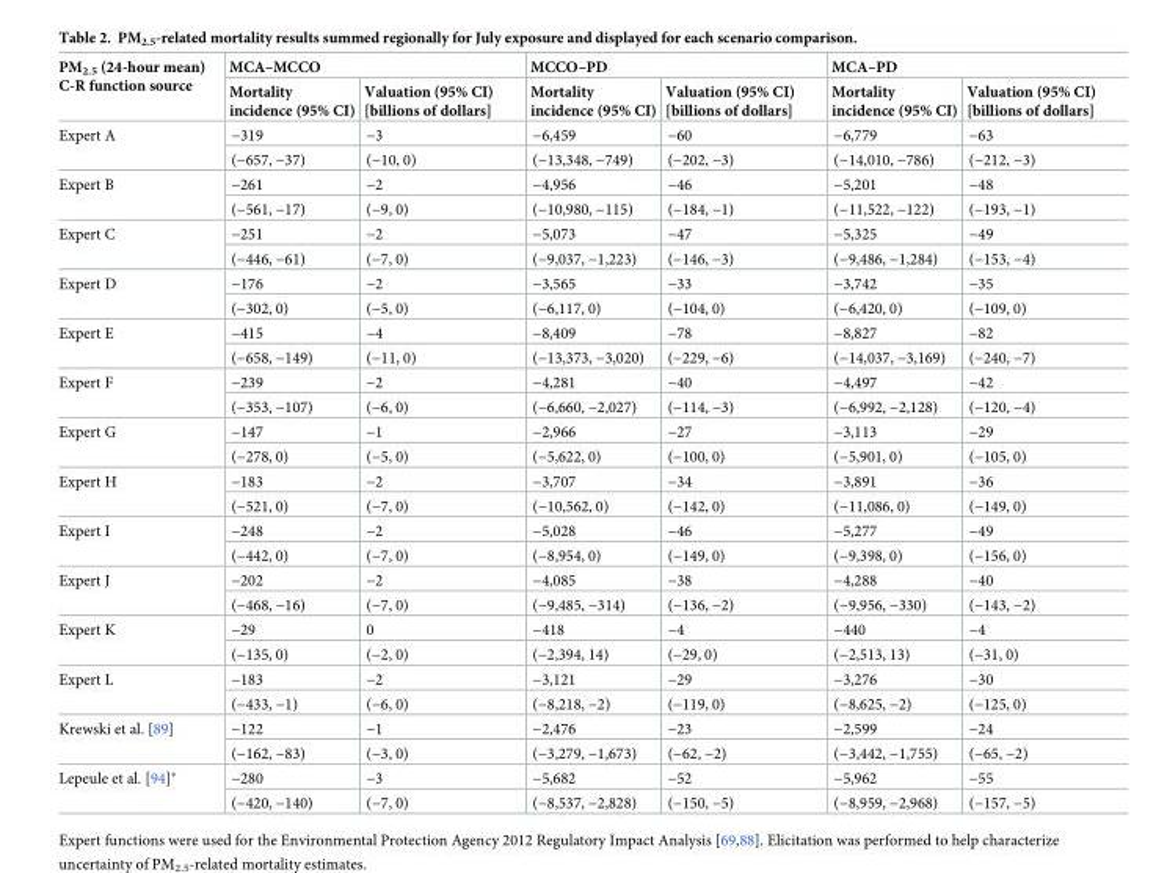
<table><thead><tr><td rowspan="2">PM<sub>2.5</sub> (24-hour mean) C-R function source</td><td colspan="2">MCA–MCCO</td><td colspan="2">MCCO–PD</td><td colspan="2">MCA–PD</td></tr><tr><td>Mortality incidence (95% CI)</td><td>Valuation (95% CI) [billions of dollars]</td><td>Mortality incidence (95% CI)</td><td>Valuation (95% CI) [billions of dollars]</td><td>Mortality incidence (95% CI)</td><td>Valuation (95% CI) [billions of dollars]</td></tr></thead><tbody><tr><td rowspan="2">Expert A</td><td>−319</td><td>−3</td><td>−6,459</td><td>−60</td><td>−6,779</td><td>−63</td></tr><tr><td>(−657, −37)</td><td>(−10, 0)</td><td>(−13,348, −749)</td><td>(−202, −3)</td><td>(−14,010, −786)</td><td>(−212, −3)</td></tr><tr><td rowspan="2">Expert B</td><td>−261</td><td>−2</td><td>−4,956</td><td>−46</td><td>−5,201</td><td>−48</td></tr><tr><td>(−561, −17)</td><td>(−9, 0)</td><td>(−10,980, −115)</td><td>(−184, −1)</td><td>(−11,522, −122)</td><td>(−193, −1)</td></tr><tr><td rowspan="2">Expert C</td><td>−251</td><td>−2</td><td>−5,073</td><td>−47</td><td>−5,325</td><td>−49</td></tr><tr><td>(−446, −61)</td><td>(−7, 0)</td><td>(−9,037, −1,223)</td><td>(−146, −3)</td><td>(−9,486, −1,284)</td><td>(−153, −4)</td></tr><tr><td rowspan="2">Expert D</td><td>−176</td><td>−2</td><td>−3,565</td><td>−33</td><td>−3,742</td><td>−35</td></tr><tr><td>(−302, 0)</td><td>(−5, 0)</td><td>(−6,117, 0)</td><td>(−104, 0)</td><td>(−6,420, 0)</td><td>(−109, 0)</td></tr><tr><td rowspan="2">Expert E</td><td>−415</td><td>−4</td><td>−8,409</td><td>−78</td><td>−8,827</td><td>−82</td></tr><tr><td>(−658, −149)</td><td>(−11, 0)</td><td>(−13,373, −3,020)</td><td>(−229, −6)</td><td>(−14,037, −3,169)</td><td>(−240, −7)</td></tr><tr><td rowspan="2">Expert F</td><td>−239</td><td>−2</td><td>−4,281</td><td>−40</td><td>−4,497</td><td>−42</td></tr><tr><td>(−353, −107)</td><td>(−6, 0)</td><td>(−6,660, −2,027)</td><td>(−114, −3)</td><td>(−6,992, −2,128)</td><td>(−120, −4)</td></tr><tr><td rowspan="2">Expert G</td><td>−147</td><td>−1</td><td>−2,966</td><td>−27</td><td>−3,113</td><td>−29</td></tr><tr><td>(−278, 0)</td><td>(−5, 0)</td><td>(−5,622, 0)</td><td>(−100, 0)</td><td>(−5,901, 0)</td><td>(−105, 0)</td></tr><tr><td rowspan="2">Expert H</td><td>−183</td><td>−2</td><td>−3,707</td><td>−34</td><td>−3,891</td><td>−36</td></tr><tr><td>(−521, 0)</td><td>(−7, 0)</td><td>(−10,562, 0)</td><td>(−142, 0)</td><td>(−11,086, 0)</td><td>(−149, 0)</td></tr><tr><td rowspan="2">Expert I</td><td>−248</td><td>−2</td><td>−5,028</td><td>−46</td><td>−5,277</td><td>−49</td></tr><tr><td>(−442, 0)</td><td>(−7, 0)</td><td>(−8,954, 0)</td><td>(−149, 0)</td><td>(−9,398, 0)</td><td>(−156, 0)</td></tr><tr><td rowspan="2">Expert J</td><td>−202</td><td>−2</td><td>−4,085</td><td>−38</td><td>−4,288</td><td>−40</td></tr><tr><td>(−468, −16)</td><td>(−7, 0)</td><td>(−9,485, −314)</td><td>(−136, −2)</td><td>(−9,956, −330)</td><td>(−143, −2)</td></tr><tr><td rowspan="2">Expert K</td><td>−29</td><td>0</td><td>−418</td><td>−4</td><td>−440</td><td>−4</td></tr><tr><td>(−135, 0)</td><td>(−2, 0)</td><td>(−2,394, 14)</td><td>(−29, 0)</td><td>(−2,513, 13)</td><td>(−31, 0)</td></tr><tr><td rowspan="2">Expert L</td><td>−183</td><td>−2</td><td>−3,121</td><td>−29</td><td>−3,276</td><td>−30</td></tr><tr><td>(−433, −1)</td><td>(−6, 0)</td><td>(−8,218, −2)</td><td>(−119, 0)</td><td>(−8,625, −2)</td><td>(−125, 0)</td></tr><tr><td rowspan="2">Krewski et al. [89]</td><td>−122</td><td>−1</td><td>−2,476</td><td>−23</td><td>−2,599</td><td>−24</td></tr><tr><td>(−162, −83)</td><td>(−3, 0)</td><td>(−3,279, −1,673)</td><td>(−62, −2)</td><td>(−3,442, −1,755)</td><td>(−65, −2)</td></tr><tr><td rowspan="2">Lepeule et al. [94]*</td><td>−280</td><td>−3</td><td>−5,682</td><td>−52</td><td>−5,962</td><td>−55</td></tr><tr><td>(−420, −140)</td><td>(−7, 0)</td><td>(−8,537, −2,828)</td><td>(−150, −5)</td><td>(−8,959, −2,968)</td><td>(−157, −5)</td></tr></tbody></table>